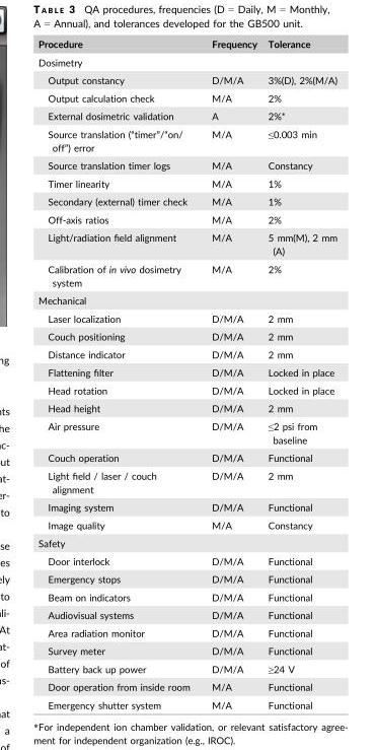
<table><thead><tr><td>Procedure</td><td>Frequency</td><td>Tolerance</td></tr></thead><tbody><tr><td colspan="3">Dosimetry</td></tr><tr><td>Output constancy</td><td>D/M/A</td><td>3%(D), 2%(M/A)</td></tr><tr><td>Output calculation check</td><td>M/A</td><td>2%</td></tr><tr><td>External dosimetric validation</td><td>A</td><td>2%*</td></tr><tr><td>Source translation (“timer”/“on/ off”) error</td><td>M/A</td><td>≤0.003 min</td></tr><tr><td>Source translation timer logs</td><td>M/A</td><td>Constancy</td></tr><tr><td>Timer linearity</td><td>M/A</td><td>1%</td></tr><tr><td>Secondary (external) timer check</td><td>M/A</td><td>1%</td></tr><tr><td>Off-axis ratios</td><td>M/A</td><td>2%</td></tr><tr><td>Light/radiation field alignment</td><td>M/A</td><td>5 mm(M), 2 mm (A)</td></tr><tr><td>Calibration of in vivo dosimetry system</td><td>M/A</td><td>2%</td></tr><tr><td colspan="3">Mechanical</td></tr><tr><td>Laser localization</td><td>D/M/A</td><td>2 mm</td></tr><tr><td>Couch positioning</td><td>D/M/A</td><td>2 mm</td></tr><tr><td>Distance indicator</td><td>D/M/A</td><td>2 mm</td></tr><tr><td>Flattening filter</td><td>D/M/A</td><td>Locked in place</td></tr><tr><td>Head rotation</td><td>D/M/A</td><td>Locked in place</td></tr><tr><td>Head height</td><td>D/M/A</td><td>2 mm</td></tr><tr><td>Air pressure</td><td>D/M/A</td><td>≤2 psi from baseline</td></tr><tr><td>Couch operation</td><td>D/M/A</td><td>Functional</td></tr><tr><td>Light field / laser / couch alignment</td><td>D/M/A</td><td>2 mm</td></tr><tr><td>Imaging system</td><td>D/M/A</td><td>Functional</td></tr><tr><td>Image quality</td><td>M/A</td><td>Constancy</td></tr><tr><td colspan="3">Safety</td></tr><tr><td>Door interlock</td><td>D/M/A</td><td>Functional</td></tr><tr><td>Emergency stops</td><td>D/M/A</td><td>Functional</td></tr><tr><td>Beam on indicators</td><td>D/M/A</td><td>Functional</td></tr><tr><td>Audiovisual systems</td><td>D/M/A</td><td>Functional</td></tr><tr><td>Area radiation monitor</td><td>D/M/A</td><td>Functional</td></tr><tr><td>Survey meter</td><td>D/M/A</td><td>Functional</td></tr><tr><td>Battery back up power</td><td>D/M/A</td><td>≥24 V</td></tr><tr><td>Door operation from inside room</td><td>M/A</td><td>Functional</td></tr><tr><td>Emergency shutter system</td><td>M/A</td><td>Functional</td></tr></tbody></table>